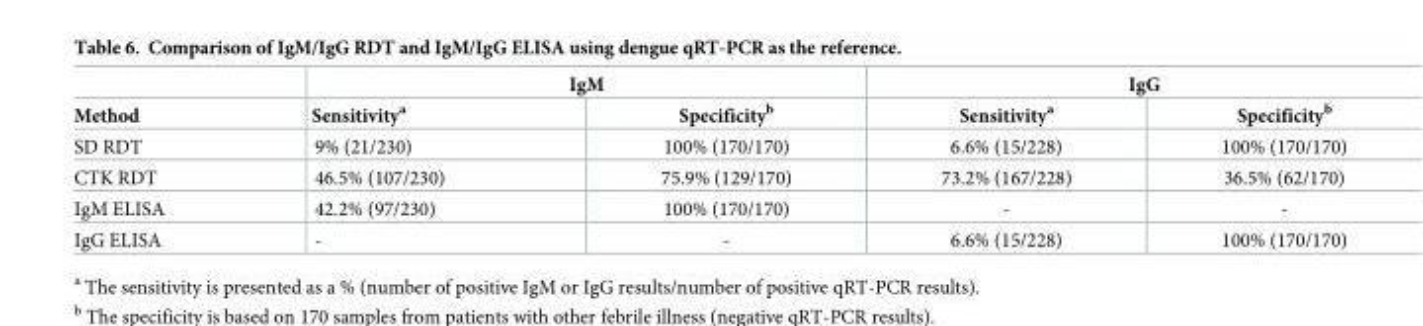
<table><thead><tr><td rowspan="2">Method</td><td colspan="2">IgM</td><td colspan="2">IgG</td></tr><tr><td>Sensitivity<sup>a</sup></td><td>Specificity<sup>b</sup></td><td>Sensitivity<sup>a</sup></td><td>Specificity<sup>b</sup></td></tr></thead><tbody><tr><td>SD RDT</td><td>9% (21/230)</td><td>100% (170/170)</td><td>6.6% (15/228)</td><td>100% (170/170)</td></tr><tr><td>CTK RDT</td><td>46.5% (107/230)</td><td>75.9% (129/170)</td><td>73.2% (167/228)</td><td>36.5% (62/170)</td></tr><tr><td>IgM ELISA</td><td>42.2% (97/230)</td><td>100% (170/170)</td><td>-</td><td>-</td></tr><tr><td>IgG ELISA</td><td>-</td><td>-</td><td>6.6% (15/228)</td><td>100% (170/170)</td></tr></tbody></table>